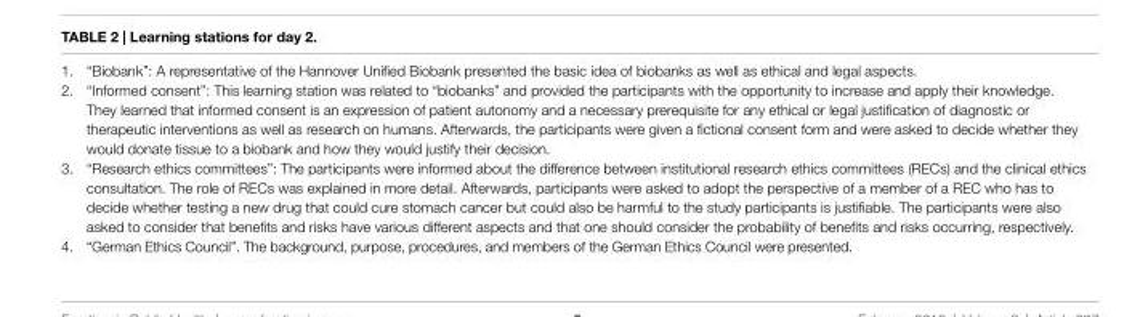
<table><tbody><tr><td>1.</td><td>“Biobank”: A representative of the Hannover Unified Biobank presented the basic idea of biobanks as well as ethical and legal aspects.</td></tr><tr><td>2.</td><td>“Informed consent”: This learning station was related to “biobanks” and provided the participants with the opportunity to increase and apply their knowledge. They learned that informed consent is an expression of patient autonomy and a necessary prerequisite for any ethical or legal justification of diagnostic or therapeutic interventions as well as research on humans. Afterwards, the participants were given a fictional consent form and were asked to decide whether they would donate tissue to a biobank and how they would justify their decision.</td></tr><tr><td>3.</td><td>“Research ethics committees”: The participants were informed about the difference between institutional research ethics committees (RECs) and the clinical ethics consultation. The role of RECs was explained in more detail. Afterwards, participants were asked to adopt the perspective of a member of a REC who has to decide whether testing a new drug that could cure stomach cancer but could also be harmful to the study participants is justifiable. The participants were also asked to consider that benefits and risks have various different aspects and that one should consider the probability of benefits and risks occurring, respectively.</td></tr><tr><td>4.</td><td>“German Ethics Council”. The background, purpose, procedures, and members of the German Ethics Council were presented.</td></tr></tbody></table>